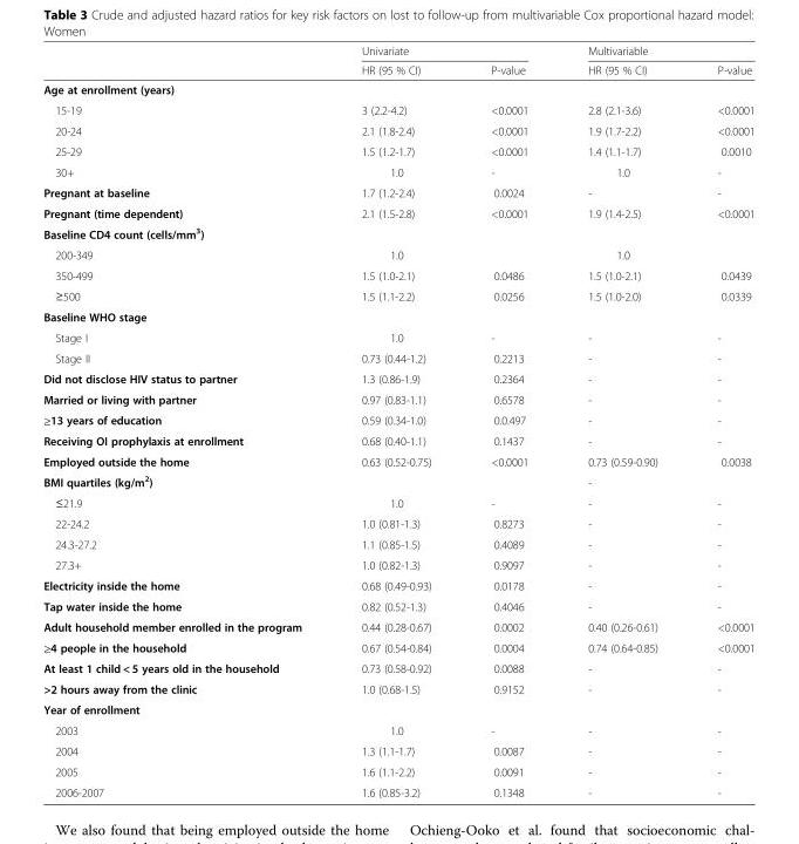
<table><thead><tr><td rowspan="2"></td><td colspan="2">Univariate</td><td colspan="2">Multivariable</td></tr><tr><td>HR (95 % CI)</td><td>P-value</td><td>HR (95 % CI)</td><td>P-value</td></tr></thead><tbody><tr><td colspan="5">Age at enrollment (years)</td></tr><tr><td>15-19</td><td>3 (2.2-4.2)</td><td>&lt;0.0001</td><td>2.8 (2.1-3.6)</td><td>&lt;0.0001</td></tr><tr><td>20-24</td><td>2.1 (1.8-2.4)</td><td>&lt;0.0001</td><td>1.9 (1.7-2.2)</td><td>&lt;0.0001</td></tr><tr><td>25-29</td><td>1.5 (1.2-1.7)</td><td>&lt;0.0001</td><td>1.4 (1.1-1.7)</td><td>0.0010</td></tr><tr><td>30+</td><td>1.0</td><td>-</td><td>1.0</td><td>-</td></tr><tr><td>Pregnant at baseline</td><td>1.7 (1.2-2.4)</td><td>0.0024</td><td>-</td><td>-</td></tr><tr><td>Pregnant (time dependent)</td><td>2.1 (1.5-2.8)</td><td>&lt;0.0001</td><td>1.9 (1.4-2.5)</td><td>&lt;0.0001</td></tr><tr><td colspan="5">Baseline CD4 count (cells/mm<sup>3</sup>)</td></tr><tr><td>200-349</td><td>1.0</td><td></td><td>1.0</td><td></td></tr><tr><td>350-499</td><td>1.5 (1.0-2.1)</td><td>0.0486</td><td>1.5 (1.0-2.1)</td><td>0.0439</td></tr><tr><td>≥500</td><td>1.5 (1.1-2.2)</td><td>0.0256</td><td>1.5 (1.0-2.0)</td><td>0.0339</td></tr><tr><td colspan="5">Baseline WHO stage</td></tr><tr><td>Stage I</td><td>1.0</td><td>-</td><td>-</td><td>-</td></tr><tr><td>Stage II</td><td>0.73 (0.44-1.2)</td><td>0.2213</td><td>-</td><td>-</td></tr><tr><td>Did not disclose HIV status to partner</td><td>1.3 (0.86-1.9)</td><td>0.2364</td><td>-</td><td>-</td></tr><tr><td>Married or living with partner</td><td>0.97 (0.83-1.1)</td><td>0.6578</td><td>-</td><td>-</td></tr><tr><td>≥13 years of education</td><td>0.59 (0.34-1.0)</td><td>0.0.497</td><td>-</td><td>-</td></tr><tr><td>Receiving OI prophylaxis at enrollment</td><td>0.68 (0.40-1.1)</td><td>0.1437</td><td>-</td><td>-</td></tr><tr><td>Employed outside the home</td><td>0.63 (0.52-0.75)</td><td>&lt;0.0001</td><td>0.73 (0.59-0.90)</td><td>0.0038</td></tr><tr><td>BMI quartiles (kg/m<sup>2</sup>)</td><td></td><td></td><td>-</td><td></td></tr><tr><td>≤21.9</td><td>1.0</td><td>-</td><td>-</td><td>-</td></tr><tr><td>22-24.2</td><td>1.0 (0.81-1.3)</td><td>0.8273</td><td>-</td><td>-</td></tr><tr><td>24.3-27.2</td><td>1.1 (0.85-1.5)</td><td>0.4089</td><td>-</td><td>-</td></tr><tr><td>27.3+</td><td>1.0 (0.82-1.3)</td><td>0.9097</td><td>-</td><td>-</td></tr><tr><td>Electricity inside the home</td><td>0.68 (0.49-0.93)</td><td>0.0178</td><td>-</td><td>-</td></tr><tr><td>Tap water inside the home</td><td>0.82 (0.52-1.3)</td><td>0.4046</td><td>-</td><td>-</td></tr><tr><td>Adult household member enrolled in the program</td><td>0.44 (0.28-0.67)</td><td>0.0002</td><td>0.40 (0.26-0.61)</td><td>&lt;0.0001</td></tr><tr><td>≥4 people in the household</td><td>0.67 (0.54-0.84)</td><td>0.0004</td><td>0.74 (0.64-0.85)</td><td>&lt;0.0001</td></tr><tr><td>At least 1 child &lt; 5 years old in the household</td><td>0.73 (0.58-0.92)</td><td>0.0088</td><td>-</td><td>-</td></tr><tr><td>&gt;2 hours away from the clinic</td><td>1.0 (0.68-1.5)</td><td>0.9152</td><td>-</td><td>-</td></tr><tr><td colspan="5">Year of enrollment</td></tr><tr><td>2003</td><td>1.0</td><td>-</td><td>-</td><td>-</td></tr><tr><td>2004</td><td>1.3 (1.1-1.7)</td><td>0.0087</td><td>-</td><td>-</td></tr><tr><td>2005</td><td>1.6 (1.1-2.2)</td><td>0.0091</td><td>-</td><td>-</td></tr><tr><td>2006-2007</td><td>1.6 (0.85-3.2)</td><td>0.1348</td><td>-</td><td>-</td></tr></tbody></table>